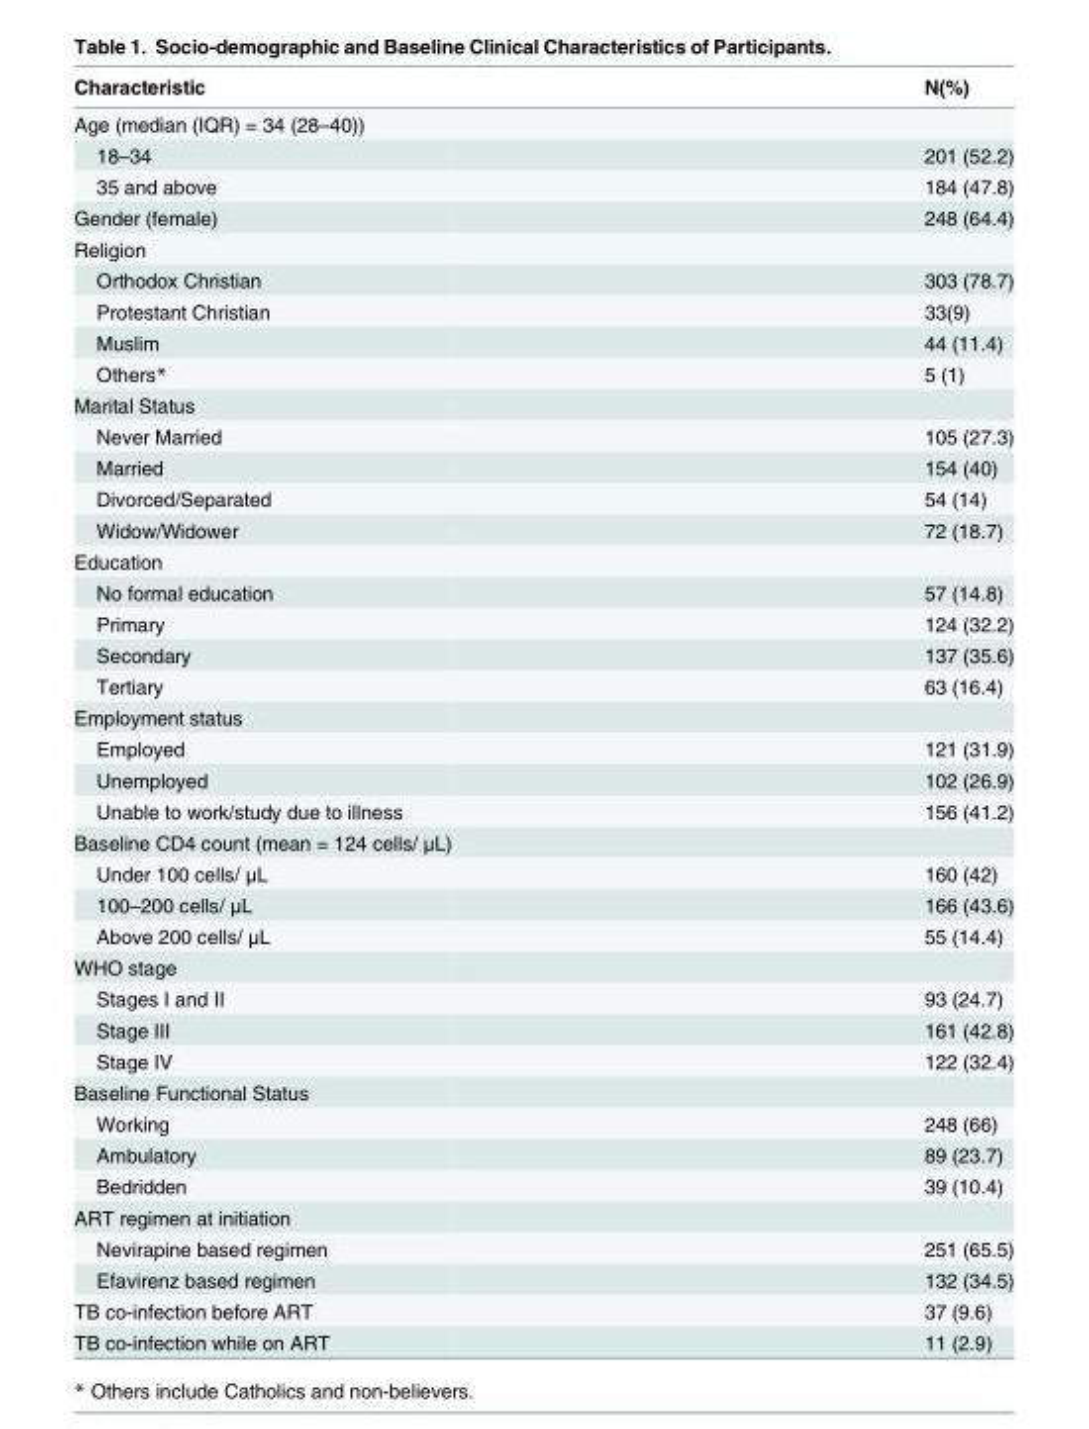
<table><thead><tr><td>Characteristic</td><td>N(%)</td></tr></thead><tbody><tr><td colspan="2">Age (median (IQR) = 34 (28–40))</td></tr><tr><td>18–34</td><td>201 (52.2)</td></tr><tr><td>35 and above</td><td>184 (47.8)</td></tr><tr><td>Gender (female)</td><td>248 (64.4)</td></tr><tr><td colspan="2">Religion</td></tr><tr><td>Orthodox Christian</td><td>303 (78.7)</td></tr><tr><td>Protestant Christian</td><td>33(9)</td></tr><tr><td>Muslim</td><td>44 (11.4)</td></tr><tr><td>Others*</td><td>5 (1)</td></tr><tr><td colspan="2">Marital Status</td></tr><tr><td>Never Married</td><td>105 (27.3)</td></tr><tr><td>Married</td><td>154 (40)</td></tr><tr><td>Divorced/Separated</td><td>54 (14)</td></tr><tr><td>Widow/Widower</td><td>72 (18.7)</td></tr><tr><td colspan="2">Education</td></tr><tr><td>No formal education</td><td>57 (14.8)</td></tr><tr><td>Primary</td><td>124 (32.2)</td></tr><tr><td>Secondary</td><td>137 (35.6)</td></tr><tr><td>Tertiary</td><td>63 (16.4)</td></tr><tr><td colspan="2">Employment status</td></tr><tr><td>Employed</td><td>121 (31.9)</td></tr><tr><td>Unemployed</td><td>102 (26.9)</td></tr><tr><td>Unable to work/study due to illness</td><td>156 (41.2)</td></tr><tr><td colspan="2">Baseline CD4 count (mean = 124 cells/ μL)</td></tr><tr><td>Under 100 cells/ μL</td><td>160 (42)</td></tr><tr><td>100–200 cells/ μL</td><td>166 (43.6)</td></tr><tr><td>Above 200 cells/ μL</td><td>55 (14.4)</td></tr><tr><td colspan="2">WHO stage</td></tr><tr><td>Stages I and II</td><td>93 (24.7)</td></tr><tr><td>Stage III</td><td>161 (42.8)</td></tr><tr><td>Stage IV</td><td>122 (32.4)</td></tr><tr><td colspan="2">Baseline Functional Status</td></tr><tr><td>Working</td><td>248 (66)</td></tr><tr><td>Ambulatory</td><td>89 (23.7)</td></tr><tr><td>Bedridden</td><td>39 (10.4)</td></tr><tr><td colspan="2">ART regimen at initiation</td></tr><tr><td>Nevirapine based regimen</td><td>251 (65.5)</td></tr><tr><td>Efavirenz based regimen</td><td>132 (34.5)</td></tr><tr><td>TB co-infection before ART</td><td>37 (9.6)</td></tr><tr><td>TB co-infection while on ART</td><td>11 (2.9)</td></tr></tbody></table>